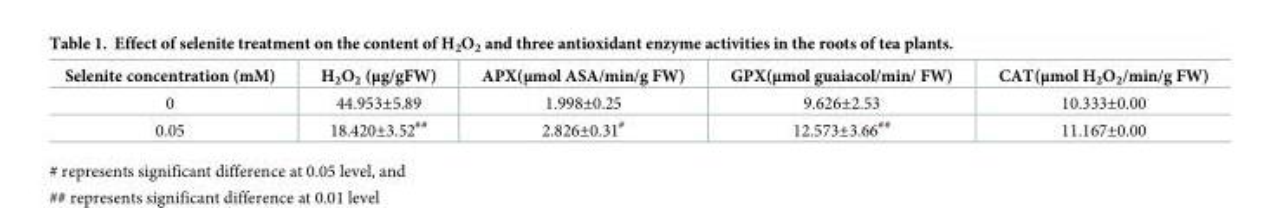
<table><thead><tr><td>Selenite concentration (mM)</td><td>H<sub>2</sub>O<sub>2</sub> (μg/gFW)</td><td>APX(μmol ASA/min/g FW)</td><td>GPX(μmol guaiacol/min/ FW)</td><td>CAT(μmol H<sub>2</sub>O<sub>2</sub>/min/g FW)</td></tr></thead><tbody><tr><td>0</td><td>44.953±5.89</td><td>1.998±0.25</td><td>9.626±2.53</td><td>10.333±0.00</td></tr><tr><td>0.05</td><td>18.420±3.52<sup>##</sup></td><td>2.826±0.31<sup>#</sup></td><td>12.573±3.66<sup>##</sup></td><td>11.167±0.00</td></tr></tbody></table>